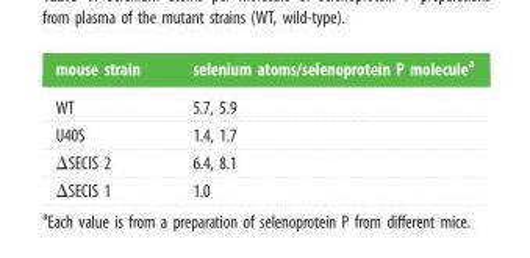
<table><thead><tr><td>mouse strain</td><td>selenium atoms/selenoprotein P molecule<sup>a</sup></td></tr></thead><tbody><tr><td>WT</td><td>5.7, 5.9</td></tr><tr><td>U40S</td><td>1.4, 1.7</td></tr><tr><td>ΔSECIS 2</td><td>6.4, 8.1</td></tr><tr><td>ΔSECIS 1</td><td>1.0</td></tr></tbody></table>